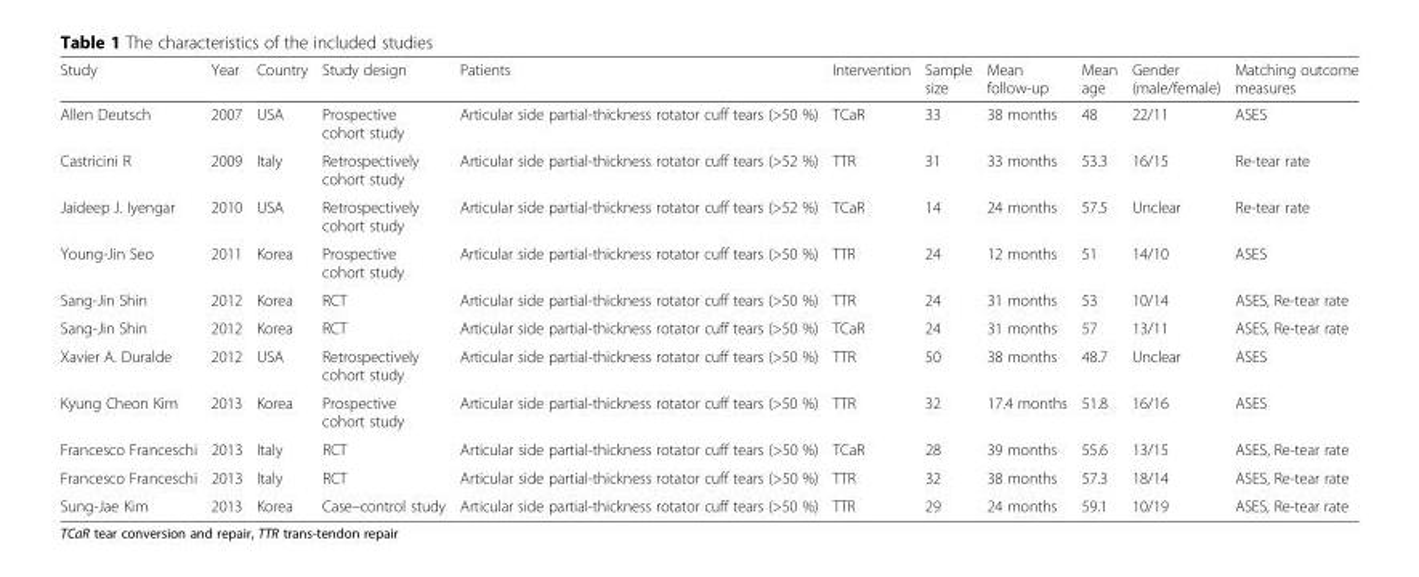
<table><thead><tr><td>Study</td><td>Year</td><td>Country</td><td>Study design</td><td>Patients</td><td>Intervention</td><td>Sample size</td><td>Mean follow-up</td><td>Mean age</td><td>Gender (male/female)</td><td>Matching outcome measures</td></tr></thead><tbody><tr><td>Allen Deutsch</td><td>2007</td><td>USA</td><td>Prospective cohort study</td><td>Articular side partial-thickness rotator cuff tears (&gt;50 %)</td><td>TCaR</td><td>33</td><td>38 months</td><td>48</td><td>22/11</td><td>ASES</td></tr><tr><td>Castricini R</td><td>2009</td><td>Italy</td><td>Retrospectively cohort study</td><td>Articular side partial-thickness rotator cuff tears (&gt;52 %)</td><td>TTR</td><td>31</td><td>33 months</td><td>53.3</td><td>16/15</td><td>Re-tear rate</td></tr><tr><td>Jaideep J. Iyengar</td><td>2010</td><td>USA</td><td>Retrospectively cohort study</td><td>Articular side partial-thickness rotator cuff tears (&gt;52 %)</td><td>TCaR</td><td>14</td><td>24 months</td><td>57.5</td><td>Unclear</td><td>Re-tear rate</td></tr><tr><td>Young-Jin Seo</td><td>2011</td><td>Korea</td><td>Prospective cohort study</td><td>Articular side partial-thickness rotator cuff tears (&gt;50 %)</td><td>TTR</td><td>24</td><td>12 months</td><td>51</td><td>14/10</td><td>ASES</td></tr><tr><td>Sang-Jin Shin</td><td>2012</td><td>Korea</td><td>RCT</td><td>Articular side partial-thickness rotator cuff tears (&gt;50 %)</td><td>TTR</td><td>24</td><td>31 months</td><td>53</td><td>10/14</td><td>ASES, Re-tear rate</td></tr><tr><td>Sang-Jin Shin</td><td>2012</td><td>Korea</td><td>RCT</td><td>Articular side partial-thickness rotator cuff tears (&gt;50 %)</td><td>TCaR</td><td>24</td><td>31 months</td><td>57</td><td>13/11</td><td>ASES, Re-tear rate</td></tr><tr><td>Xavier A. Duralde</td><td>2012</td><td>USA</td><td>Retrospectively cohort study</td><td>Articular side partial-thickness rotator cuff tears (&gt;50 %)</td><td>TTR</td><td>50</td><td>38 months</td><td>48.7</td><td>Unclear</td><td>ASES</td></tr><tr><td>Kyung Cheon Kim</td><td>2013</td><td>Korea</td><td>Prospective cohort study</td><td>Articular side partial-thickness rotator cuff tears (&gt;50 %)</td><td>TTR</td><td>32</td><td>17.4 months</td><td>51.8</td><td>16/16</td><td>ASES</td></tr><tr><td>Francesco Franceschi</td><td>2013</td><td>Italy</td><td>RCT</td><td>Articular side partial-thickness rotator cuff tears (&gt;50 %)</td><td>TCaR</td><td>28</td><td>39 months</td><td>55.6</td><td>13/15</td><td>ASES, Re-tear rate</td></tr><tr><td>Francesco Franceschi</td><td>2013</td><td>Italy</td><td>RCT</td><td>Articular side partial-thickness rotator cuff tears (&gt;50 %)</td><td>TTR</td><td>32</td><td>38 months</td><td>57.3</td><td>18/14</td><td>ASES, Re-tear rate</td></tr><tr><td>Sung-Jae Kim</td><td>2013</td><td>Korea</td><td>Case–control study</td><td>Articular side partial-thickness rotator cuff tears (&gt;50 %)</td><td>TTR</td><td>29</td><td>24 months</td><td>59.1</td><td>10/19</td><td>ASES, Re-tear rate</td></tr></tbody></table>